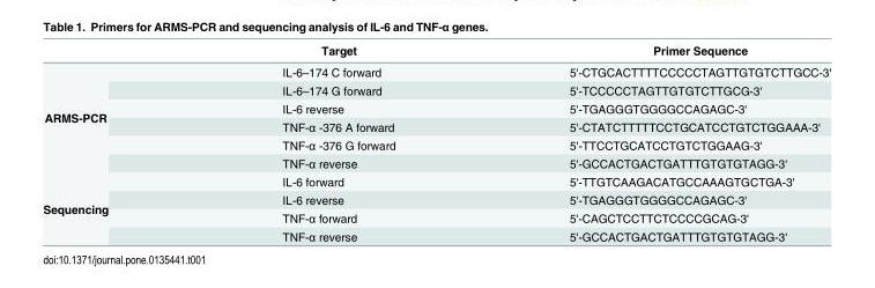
<table><thead><tr><td></td><td>Target</td><td>Primer Sequence</td></tr></thead><tbody><tr><td rowspan="6">ARMS-PCR</td><td>IL-6–174 C forward</td><td>5&#x27;-CTGCACTTTTCCCCCTAGTTGTGTCTTGCC-3&#x27;</td></tr><tr><td>IL-6–174 G forward</td><td>5&#x27;-TCCCCCTAGTTGTGTCTTGCG-3&#x27;</td></tr><tr><td>IL-6 reverse</td><td>5&#x27;-TGAGGGTGGGGCCAGAGC-3&#x27;</td></tr><tr><td>TNF-α -376 A forward</td><td>5&#x27;-CTATCTTTTTCCTGCATCCTGTCTGGAAA-3&#x27;</td></tr><tr><td>TNF-α -376 G forward</td><td>5&#x27;-TTCCTGCATCCTGTCTGGAAG-3&#x27;</td></tr><tr><td>TNF-α reverse</td><td>5&#x27;-GCCACTGACTGATTTGTGTGTAGG-3&#x27;</td></tr><tr><td rowspan="4">Sequencing</td><td>IL-6 forward</td><td>5&#x27;-TTGTCAAGACATGCCAAAGTGCTGA-3&#x27;</td></tr><tr><td>IL-6 reverse</td><td>5&#x27;-TGAGGGTGGGGCCAGAGC-3&#x27;</td></tr><tr><td>TNF-α forward</td><td>5&#x27;-CAGCTCCTTCTCCCCGCAG-3&#x27;</td></tr><tr><td>TNF-α reverse</td><td>5&#x27;-GCCACTGACTGATTTGTGTGTAGG-3&#x27;</td></tr></tbody></table>